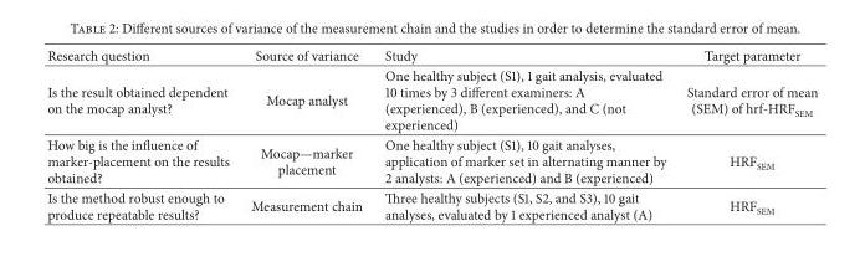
<table><thead><tr><td>Research question</td><td>Source of variance</td><td>Study</td><td>Target parameter</td></tr></thead><tbody><tr><td>Is the result obtained dependent on the mocap analyst?</td><td>Mocap analyst</td><td>One healthy subject (S1), 1 gait analysis, evaluated 10 times by 3 different examiners: A (experienced), B (experienced), and C (not experienced)</td><td>Standard error of mean (SEM) of hrf-HRF<sub>SEM</sub></td></tr><tr><td>How big is the influence of marker-placement on the results obtained?</td><td>Mocap—marker placement</td><td>One healthy subject (S1), 10 gait analyses, application of marker set in alternating manner by 2 analysts: A (experienced) and B (experienced)</td><td>HRF<sub>SEM</sub></td></tr><tr><td>Is the method robust enough to produce repeatable results?</td><td>Measurement chain</td><td>Three healthy subjects (S1, S2, and S3), 10 gait analyses, evaluated by 1 experienced analyst (A)</td><td>HRF<sub>SEM</sub></td></tr></tbody></table>